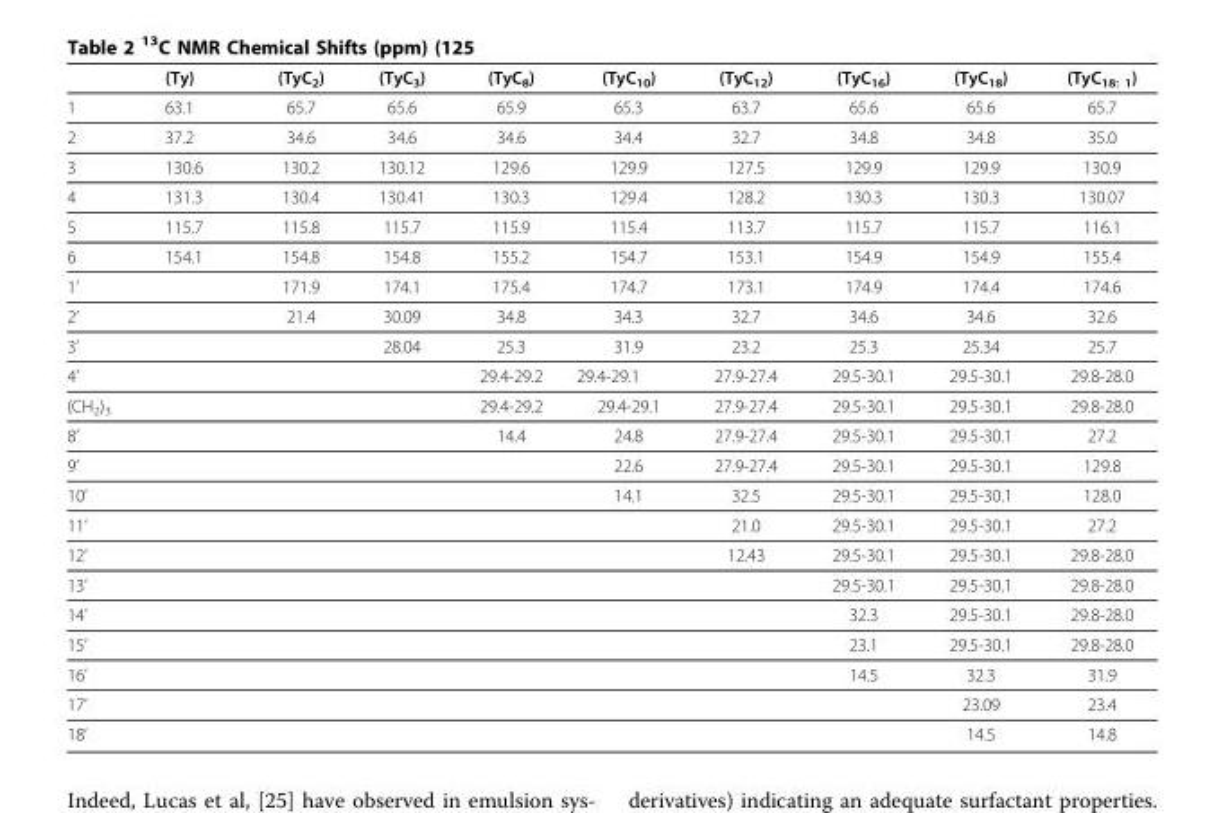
<table><thead><tr><td></td><td>(Ty)</td><td>(TyC<sub>2</sub>)</td><td>(TyC<sub>3</sub>)</td><td>(TyC<sub>8</sub>)</td><td>(TyC<sub>10</sub>)</td><td>(TyC<sub>12</sub>)</td><td>(TyC<sub>16</sub>)</td><td>(TyC<sub>18</sub>)</td><td>(TyC<sub>18: 1</sub>)</td></tr></thead><tbody><tr><td>1</td><td>63.1</td><td>65.7</td><td>65.6</td><td>65.9</td><td>65.3</td><td>63.7</td><td>65.6</td><td>65.6</td><td>65.7</td></tr><tr><td>2</td><td>37.2</td><td>34.6</td><td>34.6</td><td>34.6</td><td>34.4</td><td>32.7</td><td>34.8</td><td>34.8</td><td>35.0</td></tr><tr><td>3</td><td>130.6</td><td>130.2</td><td>130.12</td><td>129.6</td><td>129.9</td><td>127.5</td><td>129.9</td><td>129.9</td><td>130.9</td></tr><tr><td>4</td><td>131.3</td><td>130.4</td><td>130.41</td><td>130.3</td><td>129.4</td><td>128.2</td><td>130.3</td><td>130.3</td><td>130.07</td></tr><tr><td>5</td><td>115.7</td><td>115.8</td><td>115.7</td><td>115.9</td><td>115.4</td><td>113.7</td><td>115.7</td><td>115.7</td><td>116.1</td></tr><tr><td>6</td><td>154.1</td><td>154.8</td><td>154.8</td><td>155.2</td><td>154.7</td><td>153.1</td><td>154.9</td><td>154.9</td><td>155.4</td></tr><tr><td>1’</td><td></td><td>171.9</td><td>174.1</td><td>175.4</td><td>174.7</td><td>173.1</td><td>174.9</td><td>174.4</td><td>174.6</td></tr><tr><td>2’</td><td></td><td>21.4</td><td>30.09</td><td>34.8</td><td>34.3</td><td>32.7</td><td>34.6</td><td>34.6</td><td>32.6</td></tr><tr><td>3’</td><td></td><td></td><td>28.04</td><td>25.3</td><td>31.9</td><td>23.2</td><td>25.3</td><td>25.34</td><td>25.7</td></tr><tr><td>4’</td><td></td><td></td><td></td><td>29.4-29.2</td><td>29.4-29.1</td><td>27.9-27.4</td><td>29.5-30.1</td><td>29.5-30.1</td><td>29.8-28.0</td></tr><tr><td>(CH<sub>2</sub>)<sub>3</sub></td><td></td><td></td><td></td><td>29.4-29.2</td><td>29.4-29.1</td><td>27.9-27.4</td><td>29.5-30.1</td><td>29.5-30.1</td><td>29.8-28.0</td></tr><tr><td>8’</td><td></td><td></td><td></td><td>14.4</td><td>24.8</td><td>27.9-27.4</td><td>29.5-30.1</td><td>29.5-30.1</td><td>27.2</td></tr><tr><td>9’</td><td></td><td></td><td></td><td></td><td>22.6</td><td>27.9-27.4</td><td>29.5-30.1</td><td>29.5-30.1</td><td>129.8</td></tr><tr><td>10’</td><td></td><td></td><td></td><td></td><td>14.1</td><td>32.5</td><td>29.5-30.1</td><td>29.5-30.1</td><td>128.0</td></tr><tr><td>11’</td><td></td><td></td><td></td><td></td><td></td><td>21.0</td><td>29.5-30.1</td><td>29.5-30.1</td><td>27.2</td></tr><tr><td>12’</td><td></td><td></td><td></td><td></td><td></td><td>12.43</td><td>29.5-30.1</td><td>29.5-30.1</td><td>29.8-28.0</td></tr><tr><td>13’</td><td></td><td></td><td></td><td></td><td></td><td></td><td>29.5-30.1</td><td>29.5-30.1</td><td>29.8-28.0</td></tr><tr><td>14’</td><td></td><td></td><td></td><td></td><td></td><td></td><td>32.3</td><td>29.5-30.1</td><td>29.8-28.0</td></tr><tr><td>15’</td><td></td><td></td><td></td><td></td><td></td><td></td><td>23.1</td><td>29.5-30.1</td><td>29.8-28.0</td></tr><tr><td>16’</td><td></td><td></td><td></td><td></td><td></td><td></td><td>14.5</td><td>32.3</td><td>31.9</td></tr><tr><td>17’</td><td></td><td></td><td></td><td></td><td></td><td></td><td></td><td>23.09</td><td>23.4</td></tr><tr><td>18’</td><td></td><td></td><td></td><td></td><td></td><td></td><td></td><td>14.5</td><td>14.8</td></tr></tbody></table>